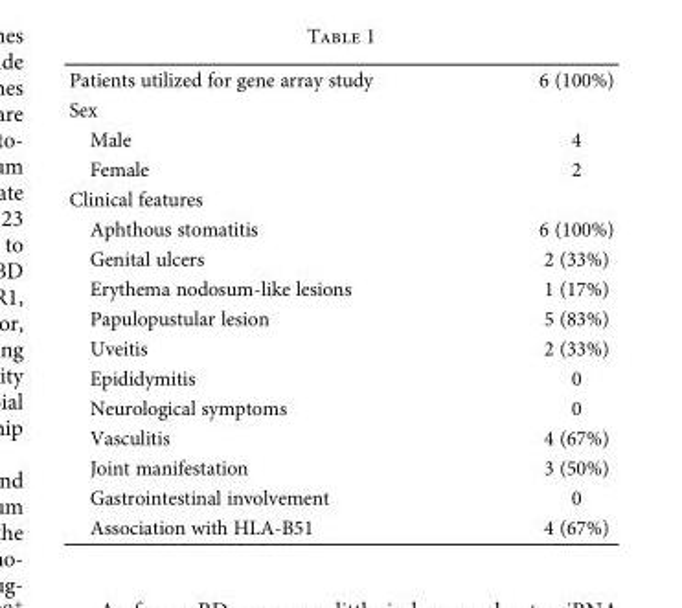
<table><tbody><tr><td>Patients utilized for gene array study</td><td>6 (100%)</td></tr><tr><td colspan="2">Sex</td></tr><tr><td>Male</td><td>4</td></tr><tr><td>Female</td><td>2</td></tr><tr><td colspan="2">Clinical features</td></tr><tr><td>Aphthous stomatitis</td><td>6 (100%)</td></tr><tr><td>Genital ulcers</td><td>2 (33%)</td></tr><tr><td>Erythema nodosum-like lesions</td><td>1 (17%)</td></tr><tr><td>Papulopustular lesion</td><td>5 (83%)</td></tr><tr><td>Uveitis</td><td>2 (33%)</td></tr><tr><td>Epididymitis</td><td>0</td></tr><tr><td>Neurological symptoms</td><td>0</td></tr><tr><td>Vasculitis</td><td>4 (67%)</td></tr><tr><td>Joint manifestation</td><td>3 (50%)</td></tr><tr><td>Gastrointestinal involvement</td><td>0</td></tr><tr><td>Association with HLA-B51</td><td>4 (67%)</td></tr></tbody></table>